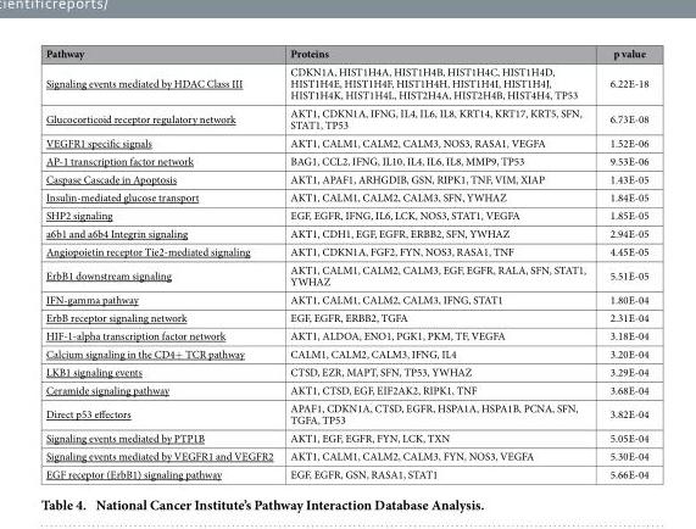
<table><thead><tr><td>Pathway</td><td>Proteins</td><td>p value</td></tr></thead><tbody><tr><td>Signaling events mediated by HDAC Class III</td><td>CDKN1A, HIST1H4A, HIST1H4B, HIST1H4C, HIST1H4D, HIST1H4E, HIST1H4F, HIST1H4H, HIST1H4I, HIST1H4J, HIST1H4K, HIST1H4L, HIST2H4A, HIST2H4B, HIST4H4, TP53</td><td>6.22E-18</td></tr><tr><td>Glucocorticoid receptor regulatory network</td><td>AKT1, CDKN1A, IFNG, IL4, IL6, IL8, KRT14, KRT17, KRT5, SFN, STAT1, TP53</td><td>6.73E-08</td></tr><tr><td>VEGFR1 specific signals</td><td>AKT1, CALM1, CALM2, CALM3, NOS3, RASA1, VEGFA</td><td>1.52E-06</td></tr><tr><td>AP-1 transcription factor network</td><td>BAG1, CCL2, IFNG, IL10, IL4, IL6, IL8, MMP9, TP53</td><td>9.53E-06</td></tr><tr><td>Caspase Cascade in Apoptosis</td><td>AKT1, APAF1, ARHGDIB, GSN, RIPK1, TNF, VIM, XIAP</td><td>1.43E-05</td></tr><tr><td>Insulin-mediated glucose transport</td><td>AKT1, CALM1, CALM2, CALM3, SFN, YWHAZ</td><td>1.84E-05</td></tr><tr><td>SHP2 signaling</td><td>EGF, EGFR, IFNG, IL6, LCK, NOS3, STAT1, VEGFA</td><td>1.85E-05</td></tr><tr><td>a6b1 and a6b4 Integrin signaling</td><td>AKT1, CDH1, EGF, EGFR, ERBB2, SFN, YWHAZ</td><td>2.94E-05</td></tr><tr><td>Angiopoietin receptor Tie2-mediated signaling</td><td>AKT1, CDKN1A, FGF2, FYN, NOS3, RASA1, TNF</td><td>4.45E-05</td></tr><tr><td>ErbB1 downstream signaling</td><td>AKT1, CALM1, CALM2, CALM3, EGF, EGFR, RALA, SFN, STAT1, YWHAZ</td><td>5.51E-05</td></tr><tr><td>IFN-gamma pathway</td><td>AKT1, CALM1, CALM2, CALM3, IFNG, STAT1</td><td>1.80E-04</td></tr><tr><td>ErbB receptor signaling network</td><td>EGF, EGFR, ERBB2, TGFA</td><td>2.31E-04</td></tr><tr><td>HIF-1-alpha transcription factor network</td><td>AKT1, ALDOA, ENO1, PGK1, PKM, TF, VEGFA</td><td>3.18E-04</td></tr><tr><td>Calcium signaling in the CD4+ TCR pathway</td><td>CALM1, CALM2, CALM3, IFNG, IL4</td><td>3.20E-04</td></tr><tr><td>LKB1 signaling events</td><td>CTSD, EZR, MAPT, SFN, TP53, YWHAZ</td><td>3.29E-04</td></tr><tr><td>Ceramide signaling pathway</td><td>AKT1, CTSD, EGF, EIF2AK2, RIPK1, TNF</td><td>3.68E-04</td></tr><tr><td>Direct p53 effectors</td><td>APAF1, CDKN1A, CTSD, EGFR, HSPA1A, HSPA1B, PCNA, SFN, TGFA, TP53</td><td>3.82E-04</td></tr><tr><td>Signaling events mediated by PTP1B</td><td>AKT1, EGF, EGFR, FYN, LCK, TXN</td><td>5.05E-04</td></tr><tr><td>Signaling events mediated by VEGFR1 and VEGFR2</td><td>AKT1, CALM1, CALM2, CALM3, FYN, NOS3, VEGFA</td><td>5.30E-04</td></tr><tr><td>EGF receptor (ErbB1) signaling pathway</td><td>EGF, EGFR, GSN, RASA1, STAT1</td><td>5.66E-04</td></tr></tbody></table>